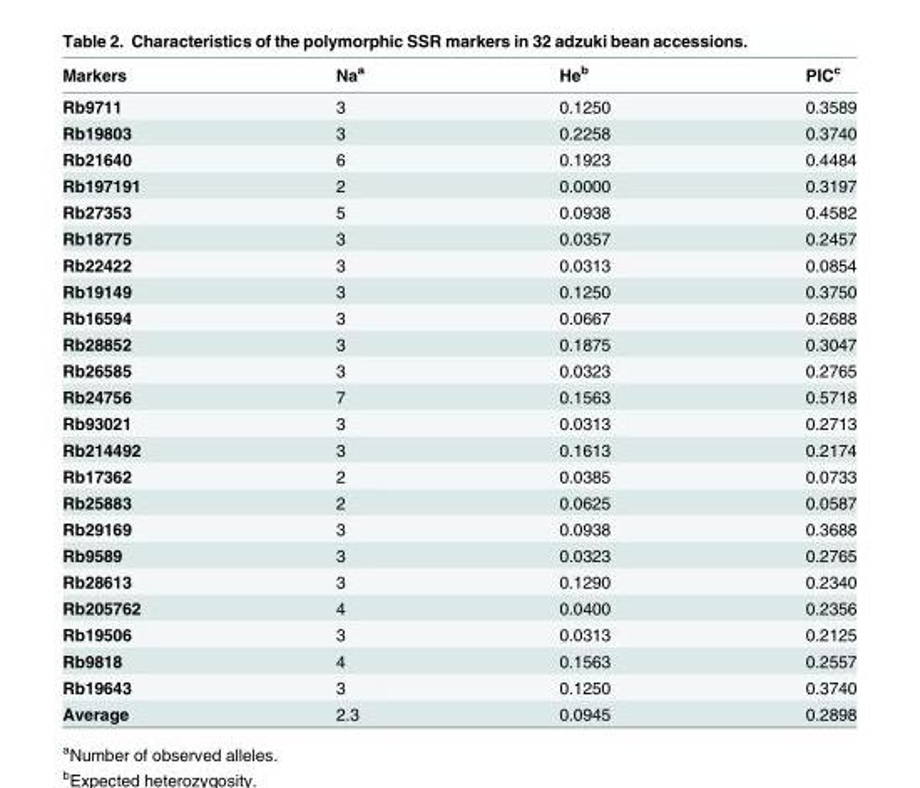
<table><thead><tr><td>Markers</td><td>Na<sup>a</sup></td><td>He<sup>b</sup></td><td>PIC<sup>c</sup></td></tr></thead><tbody><tr><td>Rb9711</td><td>3</td><td>0.1250</td><td>0.3589</td></tr><tr><td>Rb19803</td><td>3</td><td>0.2258</td><td>0.3740</td></tr><tr><td>Rb21640</td><td>6</td><td>0.1923</td><td>0.4484</td></tr><tr><td>Rb197191</td><td>2</td><td>0.0000</td><td>0.3197</td></tr><tr><td>Rb27353</td><td>5</td><td>0.0938</td><td>0.4582</td></tr><tr><td>Rb18775</td><td>3</td><td>0.0357</td><td>0.2457</td></tr><tr><td>Rb22422</td><td>3</td><td>0.0313</td><td>0.0854</td></tr><tr><td>Rb19149</td><td>3</td><td>0.1250</td><td>0.3750</td></tr><tr><td>Rb16594</td><td>3</td><td>0.0667</td><td>0.2688</td></tr><tr><td>Rb28852</td><td>3</td><td>0.1875</td><td>0.3047</td></tr><tr><td>Rb26585</td><td>3</td><td>0.0323</td><td>0.2765</td></tr><tr><td>Rb24756</td><td>7</td><td>0.1563</td><td>0.5718</td></tr><tr><td>Rb93021</td><td>3</td><td>0.0313</td><td>0.2713</td></tr><tr><td>Rb214492</td><td>3</td><td>0.1613</td><td>0.2174</td></tr><tr><td>Rb17362</td><td>2</td><td>0.0385</td><td>0.0733</td></tr><tr><td>Rb25883</td><td>2</td><td>0.0625</td><td>0.0587</td></tr><tr><td>Rb29169</td><td>3</td><td>0.0938</td><td>0.3688</td></tr><tr><td>Rb9589</td><td>3</td><td>0.0323</td><td>0.2765</td></tr><tr><td>Rb28613</td><td>3</td><td>0.1290</td><td>0.2340</td></tr><tr><td>Rb205762</td><td>4</td><td>0.0400</td><td>0.2356</td></tr><tr><td>Rb19506</td><td>3</td><td>0.0313</td><td>0.2125</td></tr><tr><td>Rb9818</td><td>4</td><td>0.1563</td><td>0.2557</td></tr><tr><td>Rb19643</td><td>3</td><td>0.1250</td><td>0.3740</td></tr><tr><td>Average</td><td>2.3</td><td>0.0945</td><td>0.2898</td></tr></tbody></table>